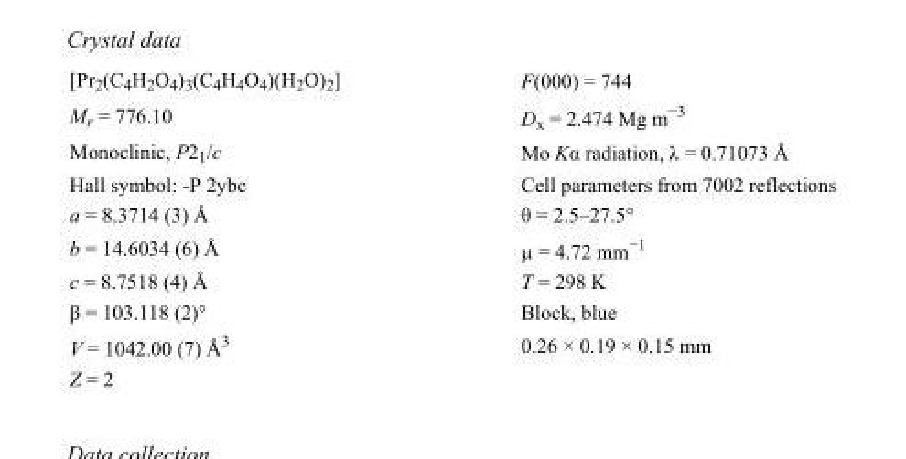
<table><tbody><tr><td>[Pr<sub>2</sub>(C<sub>4</sub>H<sub>2</sub>O<sub>4</sub>)<sub>3</sub>(C<sub>4</sub>H<sub>4</sub>O<sub>4</sub>)(H<sub>2</sub>O)<sub>2</sub>]</td><td>F(000) = 744</td></tr><tr><td>M<sub>r</sub> = 776.10</td><td>D<sub>x</sub> = 2.474 Mg m<sup>−3</sup></td></tr><tr><td>Monoclinic, P2<sub>1</sub>/c</td><td>Mo Kα radiation, λ = 0.71073 Å</td></tr><tr><td>Hall symbol: -P 2ybc</td><td>Cell parameters from 7002 reflections</td></tr><tr><td>a = 8.3714 (3) Å</td><td>θ = 2.5–27.5°</td></tr><tr><td>b = 14.6034 (6) Å</td><td>µ = 4.72 mm<sup>−1</sup></td></tr><tr><td>c = 8.7518 (4) Å</td><td>T = 298 K</td></tr><tr><td>β = 103.118 (2)°</td><td>Block, blue</td></tr><tr><td>V = 1042.00 (7) Å<sup>3</sup></td><td>0.26 × 0.19 × 0.15 mm</td></tr><tr><td>Z = 2</td><td></td></tr></tbody></table>